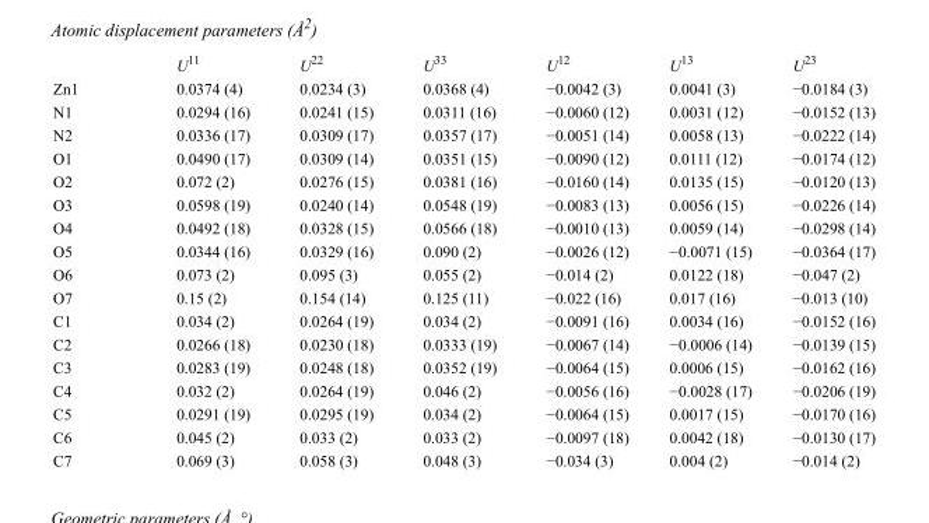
<table><thead><tr><td></td><td>U<sup>11</sup></td><td>U<sup>22</sup></td><td>U<sup>33</sup></td><td>U<sup>12</sup></td><td>U<sup>13</sup></td><td>U<sup>23</sup></td></tr></thead><tbody><tr><td>Zn1</td><td>0.0374 (4)</td><td>0.0234 (3)</td><td>0.0368 (4)</td><td>−0.0042 (3)</td><td>0.0041 (3)</td><td>−0.0184 (3)</td></tr><tr><td>N1</td><td>0.0294 (16)</td><td>0.0241 (15)</td><td>0.0311 (16)</td><td>−0.0060 (12)</td><td>0.0031 (12)</td><td>−0.0152 (13)</td></tr><tr><td>N2</td><td>0.0336 (17)</td><td>0.0309 (17)</td><td>0.0357 (17)</td><td>−0.0051 (14)</td><td>0.0058 (13)</td><td>−0.0222 (14)</td></tr><tr><td>O1</td><td>0.0490 (17)</td><td>0.0309 (14)</td><td>0.0351 (15)</td><td>−0.0090 (12)</td><td>0.0111 (12)</td><td>−0.0174 (12)</td></tr><tr><td>O2</td><td>0.072 (2)</td><td>0.0276 (15)</td><td>0.0381 (16)</td><td>−0.0160 (14)</td><td>0.0135 (15)</td><td>−0.0120 (13)</td></tr><tr><td>O3</td><td>0.0598 (19)</td><td>0.0240 (14)</td><td>0.0548 (19)</td><td>−0.0083 (13)</td><td>0.0056 (15)</td><td>−0.0226 (14)</td></tr><tr><td>O4</td><td>0.0492 (18)</td><td>0.0328 (15)</td><td>0.0566 (18)</td><td>−0.0010 (13)</td><td>0.0059 (14)</td><td>−0.0298 (14)</td></tr><tr><td>O5</td><td>0.0344 (16)</td><td>0.0329 (16)</td><td>0.090 (2)</td><td>−0.0026 (12)</td><td>−0.0071 (15)</td><td>−0.0364 (17)</td></tr><tr><td>O6</td><td>0.073 (2)</td><td>0.095 (3)</td><td>0.055 (2)</td><td>−0.014 (2)</td><td>0.0122 (18)</td><td>−0.047 (2)</td></tr><tr><td>O7</td><td>0.15 (2)</td><td>0.154 (14)</td><td>0.125 (11)</td><td>−0.022 (16)</td><td>0.017 (16)</td><td>−0.013 (10)</td></tr><tr><td>C1</td><td>0.034 (2)</td><td>0.0264 (19)</td><td>0.034 (2)</td><td>−0.0091 (16)</td><td>0.0034 (16)</td><td>−0.0152 (16)</td></tr><tr><td>C2</td><td>0.0266 (18)</td><td>0.0230 (18)</td><td>0.0333 (19)</td><td>−0.0067 (14)</td><td>−0.0006 (14)</td><td>−0.0139 (15)</td></tr><tr><td>C3</td><td>0.0283 (19)</td><td>0.0248 (18)</td><td>0.0352 (19)</td><td>−0.0064 (15)</td><td>0.0006 (15)</td><td>−0.0162 (16)</td></tr><tr><td>C4</td><td>0.032 (2)</td><td>0.0264 (19)</td><td>0.046 (2)</td><td>−0.0056 (16)</td><td>−0.0028 (17)</td><td>−0.0206 (19)</td></tr><tr><td>C5</td><td>0.0291 (19)</td><td>0.0295 (19)</td><td>0.034 (2)</td><td>−0.0064 (15)</td><td>0.0017 (15)</td><td>−0.0170 (16)</td></tr><tr><td>C6</td><td>0.045 (2)</td><td>0.033 (2)</td><td>0.033 (2)</td><td>−0.0097 (18)</td><td>0.0042 (18)</td><td>−0.0130 (17)</td></tr><tr><td>C7</td><td>0.069 (3)</td><td>0.058 (3)</td><td>0.048 (3)</td><td>−0.034 (3)</td><td>0.004 (2)</td><td>−0.014 (2)</td></tr></tbody></table>